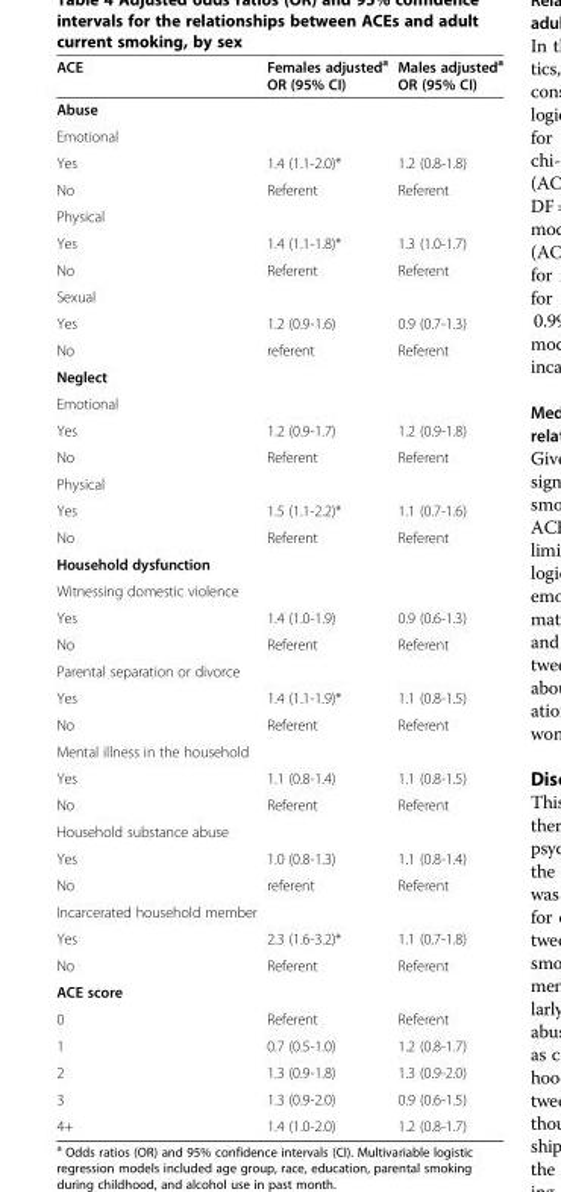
<table><thead><tr><td>ACE</td><td>Females adjusted<sup>a</sup> OR (95% CI)</td><td>Males adjusted<sup>a</sup> OR (95% CI)</td></tr></thead><tbody><tr><td colspan="3">Abuse</td></tr><tr><td colspan="3">Emotional</td></tr><tr><td>Yes</td><td>1.4 (1.1-2.0)*</td><td>1.2 (0.8-1.8)</td></tr><tr><td>No</td><td>Referent</td><td>Referent</td></tr><tr><td colspan="3">Physical</td></tr><tr><td>Yes</td><td>1.4 (1.1-1.8)*</td><td>1.3 (1.0-1.7)</td></tr><tr><td>No</td><td>Referent</td><td>Referent</td></tr><tr><td colspan="3">Sexual</td></tr><tr><td>Yes</td><td>1.2 (0.9-1.6)</td><td>0.9 (0.7-1.3)</td></tr><tr><td>No</td><td>referent</td><td>Referent</td></tr><tr><td colspan="3">Neglect</td></tr><tr><td colspan="3">Emotional</td></tr><tr><td>Yes</td><td>1.2 (0.9-1.7)</td><td>1.2 (0.9-1.8)</td></tr><tr><td>No</td><td>Referent</td><td>Referent</td></tr><tr><td colspan="3">Physical</td></tr><tr><td>Yes</td><td>1.5 (1.1-2.2)*</td><td>1.1 (0.7-1.6)</td></tr><tr><td>No</td><td>Referent</td><td>Referent</td></tr><tr><td colspan="3">Household dysfunction</td></tr><tr><td colspan="3">Witnessing domestic violence</td></tr><tr><td>Yes</td><td>1.4 (1.0-1.9)</td><td>0.9 (0.6-1.3)</td></tr><tr><td>No</td><td>Referent</td><td>Referent</td></tr><tr><td colspan="3">Parental separation or divorce</td></tr><tr><td>Yes</td><td>1.4 (1.1-1.9)*</td><td>1.1 (0.8-1.5)</td></tr><tr><td>No</td><td>Referent</td><td>Referent</td></tr><tr><td colspan="3">Mental illness in the household</td></tr><tr><td>Yes</td><td>1.1 (0.8-1.4)</td><td>1.1 (0.8-1.5)</td></tr><tr><td>No</td><td>Referent</td><td>Referent</td></tr><tr><td colspan="3">Household substance abuse</td></tr><tr><td>Yes</td><td>1.0 (0.8-1.3)</td><td>1.1 (0.8-1.4)</td></tr><tr><td>No</td><td>referent</td><td>Referent</td></tr><tr><td colspan="3">Incarcerated household member</td></tr><tr><td>Yes</td><td>2.3 (1.6-3.2)*</td><td>1.1 (0.7-1.8)</td></tr><tr><td>No</td><td>Referent</td><td>Referent</td></tr><tr><td colspan="3">ACE score</td></tr><tr><td>0</td><td>Referent</td><td>Referent</td></tr><tr><td>1</td><td>0.7 (0.5-1.0)</td><td>1.2 (0.8-1.7)</td></tr><tr><td>2</td><td>1.3 (0.9-1.8)</td><td>1.3 (0.9-2.0)</td></tr><tr><td>3</td><td>1.3 (0.9-2.0)</td><td>0.9 (0.6-1.5)</td></tr><tr><td>4+</td><td>1.4 (1.0-2.0)</td><td>1.2 (0.8-1.7)</td></tr></tbody></table>